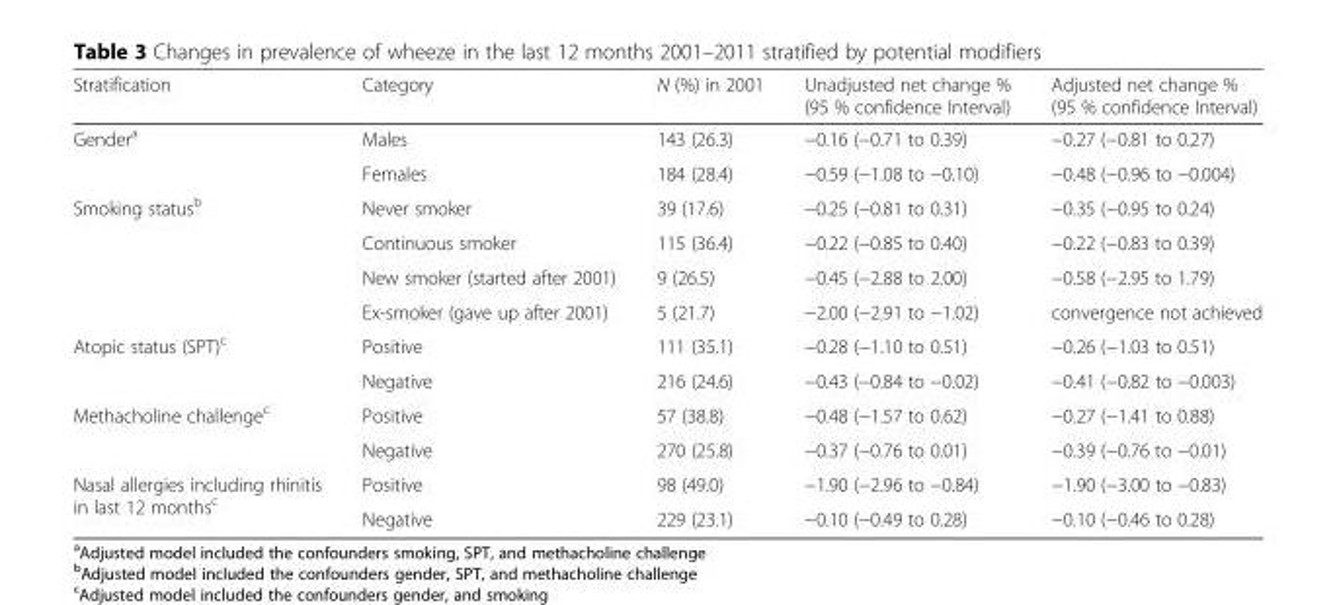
<table><thead><tr><td>Stratification</td><td>Category</td><td>N (%) in 2001</td><td>Unadjusted net change % (95 % confidence Interval)</td><td>Adjusted net change % (95 % confidence Interval)</td></tr></thead><tbody><tr><td rowspan="2">Gender<sup>a</sup></td><td>Males</td><td>143 (26.3)</td><td>−0.16 (−0.71 to 0.39)</td><td>−0.27 (−0.81 to 0.27)</td></tr><tr><td>Females</td><td>184 (28.4)</td><td>−0.59 (−1.08 to −0.10)</td><td>−0.48 (−0.96 to −0.004)</td></tr><tr><td rowspan="4">Smoking status<sup>b</sup></td><td>Never smoker</td><td>39 (17.6)</td><td>−0.25 (−0.81 to 0.31)</td><td>−0.35 (−0.95 to 0.24)</td></tr><tr><td>Continuous smoker</td><td>115 (36.4)</td><td>−0.22 (−0.85 to 0.40)</td><td>−0.22 (−0.83 to 0.39)</td></tr><tr><td>New smoker (started after 2001)</td><td>9 (26.5)</td><td>−0.45 (−2.88 to 2.00)</td><td>−0.58 (−2.95 to 1.79)</td></tr><tr><td>Ex-smoker (gave up after 2001)</td><td>5 (21.7)</td><td>−2.00 (−2.91 to −1.02)</td><td>convergence not achieved</td></tr><tr><td rowspan="2">Atopic status (SPT)<sup>c</sup></td><td>Positive</td><td>111 (35.1)</td><td>−0.28 (−1.10 to 0.51)</td><td>−0.26 (−1.03 to 0.51)</td></tr><tr><td>Negative</td><td>216 (24.6)</td><td>−0.43 (−0.84 to −0.02)</td><td>−0.41 (−0.82 to −0.003)</td></tr><tr><td rowspan="2">Methacholine challenge<sup>c</sup></td><td>Positive</td><td>57 (38.8)</td><td>−0.48 (−1.57 to 0.62)</td><td>−0.27 (−1.41 to 0.88)</td></tr><tr><td>Negative</td><td>270 (25.8)</td><td>−0.37 (−0.76 to 0.01)</td><td>−0.39 (−0.76 to −0.01)</td></tr><tr><td rowspan="2">Nasal allergies including rhinitis in last 12 months<sup>c</sup></td><td>Positive</td><td>98 (49.0)</td><td>−1.90 (−2.96 to −0.84)</td><td>−1.90 (−3.00 to −0.83)</td></tr><tr><td>Negative</td><td>229 (23.1)</td><td>−0.10 (−0.49 to 0.28)</td><td>−0.10 (−0.46 to 0.28)</td></tr></tbody></table>